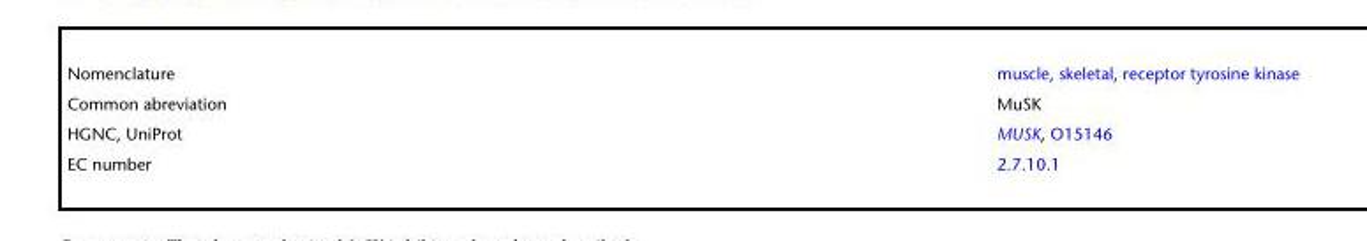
<table><tbody><tr><td>Nomenclature</td><td>muscle, skeletal, receptor tyrosine kinase</td></tr><tr><td>Common abreviation</td><td>MuSK</td></tr><tr><td>HGNC, UniProt</td><td>MUSK, O15146</td></tr><tr><td>EC number</td><td>2.7.10.1</td></tr></tbody></table>